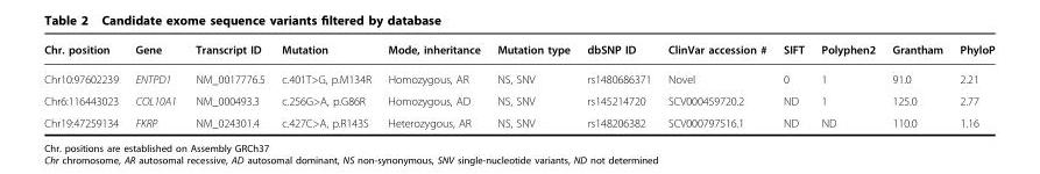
<table><thead><tr><td>Chr. position</td><td>Gene</td><td>Transcript ID</td><td>Mutation</td><td>Mode, inheritance</td><td>Mutation type</td><td>dbSNP ID</td><td>ClinVar accession #</td><td>SIFT</td><td>Polyphen2</td><td>Grantham</td><td>PhyloP</td></tr></thead><tbody><tr><td>Chr10:97602239</td><td>ENTPD1</td><td>NM_0017776.5</td><td>c.401T&gt;G, p.M134R</td><td>Homozygous, AR</td><td>NS, SNV</td><td>rs1480686371</td><td>Novel</td><td>0</td><td>1</td><td>91.0</td><td>2.21</td></tr><tr><td>Chr6:116443023</td><td>COL10A1</td><td>NM_000493.3</td><td>c.256G&gt;A, p.G86R</td><td>Homozygous, AD</td><td>NS, SNV</td><td>rs145214720</td><td>SCV000459720.2</td><td>ND</td><td>1</td><td>125.0</td><td>2.77</td></tr><tr><td>Chr19:47259134</td><td>FKRP</td><td>NM_024301.4</td><td>c.427C&gt;A, p.R143S</td><td>Heterozygous, AR</td><td>NS, SNV</td><td>rs148206382</td><td>SCV000797516.1</td><td>ND</td><td>ND</td><td>110.0</td><td>1.16</td></tr></tbody></table>